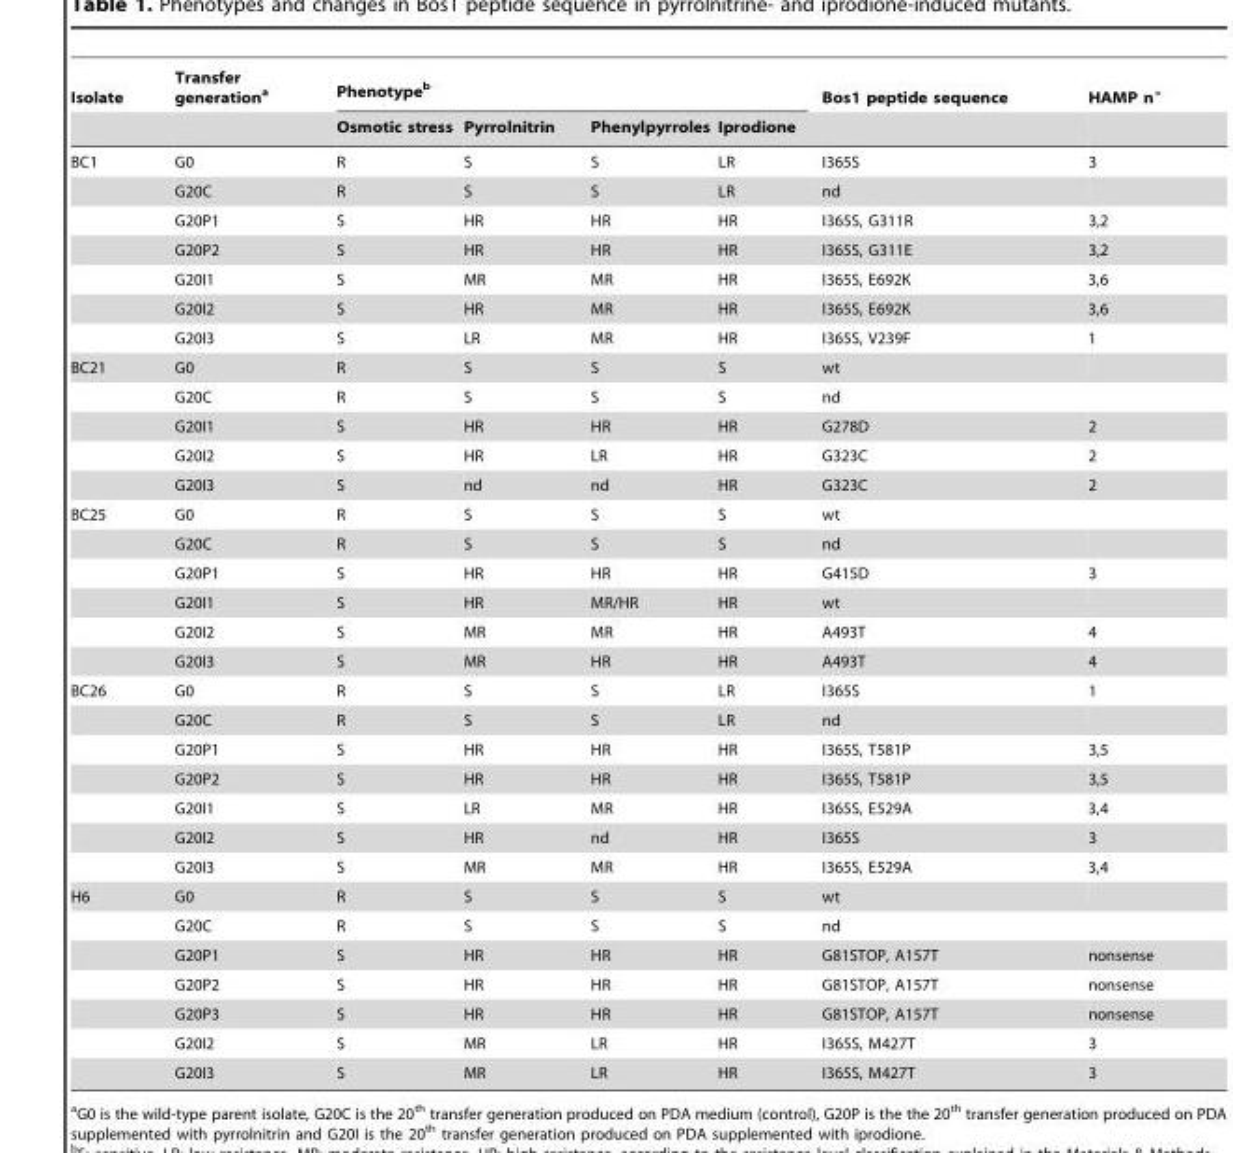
<table><thead><tr><td rowspan="2">Isolate</td><td rowspan="2">Transfer generation<sup>a</sup></td><td colspan="4">Phenotype<sup>b</sup></td><td rowspan="2">Bos1 peptide sequence</td><td rowspan="2">HAMP n°</td></tr><tr><td>Osmotic stress</td><td>Pyrrolnitrin</td><td>Phenylpyrroles</td><td>Iprodione</td></tr></thead><tbody><tr><td rowspan="7">BC1</td><td>G0</td><td>R</td><td>S</td><td>S</td><td>LR</td><td>I365S</td><td>3</td></tr><tr><td>G20C</td><td>R</td><td>S</td><td>S</td><td>LR</td><td>nd</td><td></td></tr><tr><td>G20P1</td><td>S</td><td>HR</td><td>HR</td><td>HR</td><td>I365S, G311R</td><td>3,2</td></tr><tr><td>G20P2</td><td>S</td><td>HR</td><td>HR</td><td>HR</td><td>I365S, G311E</td><td>3,2</td></tr><tr><td>G20I1</td><td>S</td><td>MR</td><td>MR</td><td>HR</td><td>I365S, E692K</td><td>3,6</td></tr><tr><td>G20I2</td><td>S</td><td>HR</td><td>MR</td><td>HR</td><td>I365S, E692K</td><td>3,6</td></tr><tr><td>G20I3</td><td>S</td><td>LR</td><td>MR</td><td>HR</td><td>I365S, V239F</td><td>1</td></tr><tr><td rowspan="5">BC21</td><td>G0</td><td>R</td><td>S</td><td>S</td><td>S</td><td>wt</td><td></td></tr><tr><td>G20C</td><td>R</td><td>S</td><td>S</td><td>S</td><td>nd</td><td></td></tr><tr><td>G20I1</td><td>S</td><td>HR</td><td>HR</td><td>HR</td><td>G278D</td><td>2</td></tr><tr><td>G20I2</td><td>S</td><td>HR</td><td>LR</td><td>HR</td><td>G323C</td><td>2</td></tr><tr><td>G20I3</td><td>S</td><td>nd</td><td>nd</td><td>HR</td><td>G323C</td><td>2</td></tr><tr><td rowspan="6">BC25</td><td>G0</td><td>R</td><td>S</td><td>S</td><td>S</td><td>wt</td><td></td></tr><tr><td>G20C</td><td>R</td><td>S</td><td>S</td><td>S</td><td>nd</td><td></td></tr><tr><td>G20P1</td><td>S</td><td>HR</td><td>HR</td><td>HR</td><td>G415D</td><td>3</td></tr><tr><td>G20I1</td><td>S</td><td>HR</td><td>MR/HR</td><td>HR</td><td>wt</td><td></td></tr><tr><td>G20I2</td><td>S</td><td>MR</td><td>MR</td><td>HR</td><td>A493T</td><td>4</td></tr><tr><td>G20I3</td><td>S</td><td>MR</td><td>HR</td><td>HR</td><td>A493T</td><td>4</td></tr><tr><td rowspan="7">BC26</td><td>G0</td><td>R</td><td>S</td><td>S</td><td>LR</td><td>I365S</td><td>1</td></tr><tr><td>G20C</td><td>R</td><td>S</td><td>S</td><td>LR</td><td>nd</td><td></td></tr><tr><td>G20P1</td><td>S</td><td>HR</td><td>HR</td><td>HR</td><td>I365S, T581P</td><td>3,5</td></tr><tr><td>G20P2</td><td>S</td><td>HR</td><td>HR</td><td>HR</td><td>I365S, T581P</td><td>3,5</td></tr><tr><td>G20I1</td><td>S</td><td>LR</td><td>MR</td><td>HR</td><td>I365S, E529A</td><td>3,4</td></tr><tr><td>G20I2</td><td>S</td><td>HR</td><td>nd</td><td>HR</td><td>I365S</td><td>3</td></tr><tr><td>G20I3</td><td>S</td><td>MR</td><td>MR</td><td>HR</td><td>I365S, E529A</td><td>3,4</td></tr><tr><td rowspan="7">H6</td><td>G0</td><td>R</td><td>S</td><td>S</td><td>S</td><td>wt</td><td></td></tr><tr><td>G20C</td><td>R</td><td>S</td><td>S</td><td>S</td><td>nd</td><td></td></tr><tr><td>G20P1</td><td>S</td><td>HR</td><td>HR</td><td>HR</td><td>G81STOP, A157T</td><td>nonsense</td></tr><tr><td>G20P2</td><td>S</td><td>HR</td><td>HR</td><td>HR</td><td>G81STOP, A157T</td><td>nonsense</td></tr><tr><td>G20P3</td><td>S</td><td>HR</td><td>HR</td><td>HR</td><td>G81STOP, A157T</td><td>nonsense</td></tr><tr><td>G20I2</td><td>S</td><td>MR</td><td>LR</td><td>HR</td><td>I365S, M427T</td><td>3</td></tr><tr><td>G20I3</td><td>S</td><td>MR</td><td>LR</td><td>HR</td><td>I365S, M427T</td><td>3</td></tr></tbody></table>